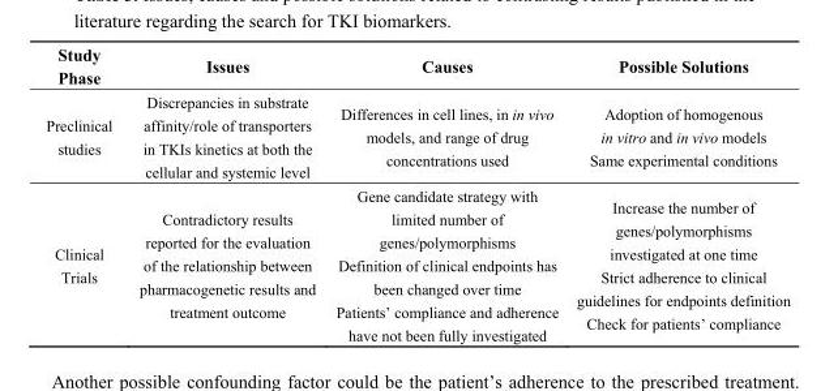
<table><thead><tr><td>Study Phase</td><td>Issues</td><td>Causes</td><td>Possible Solutions</td></tr></thead><tbody><tr><td>Preclinical studies</td><td>Discrepancies in substrate affinity/role of transporters in TKIs kinetics at both the cellular and systemic level</td><td>Differences in cell lines, in in vivo models, and range of drug concentrations used</td><td>Adoption of homogenous in vitro and in vivo models Same experimental conditions</td></tr><tr><td>Clinical Trials</td><td>Contradictory results reported for the evaluation of the relationship between pharmacogenetic results and treatment outcome</td><td>Gene candidate strategy with limited number of genes/polymorphisms Definition of clinical endpoints has been changed over time Patients’ compliance and adherence have not been fully investigated</td><td>Increase the number of genes/polymorphisms investigated at one time Strict adherence to clinical guidelines for endpoints definition Check for patients’ compliance</td></tr></tbody></table>